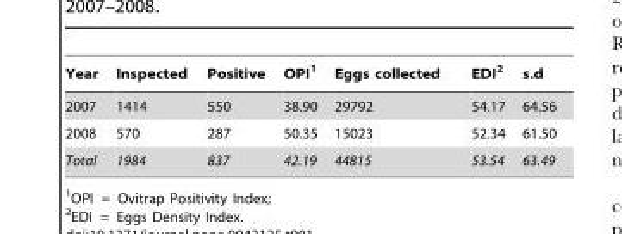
<table><thead><tr><td>Year</td><td>Inspected</td><td>Positive</td><td>OPI<sup>1</sup></td><td>Eggs collected</td><td>EDI<sup>2</sup></td><td>s.d</td></tr></thead><tbody><tr><td>2007</td><td>1414</td><td>550</td><td>38.90</td><td>29792</td><td>54.17</td><td>64.56</td></tr><tr><td>2008</td><td>570</td><td>287</td><td>50.35</td><td>15023</td><td>52.34</td><td>61.50</td></tr><tr><td>Total</td><td>1984</td><td>837</td><td>42.19</td><td>44815</td><td>53.54</td><td>63.49</td></tr></tbody></table>